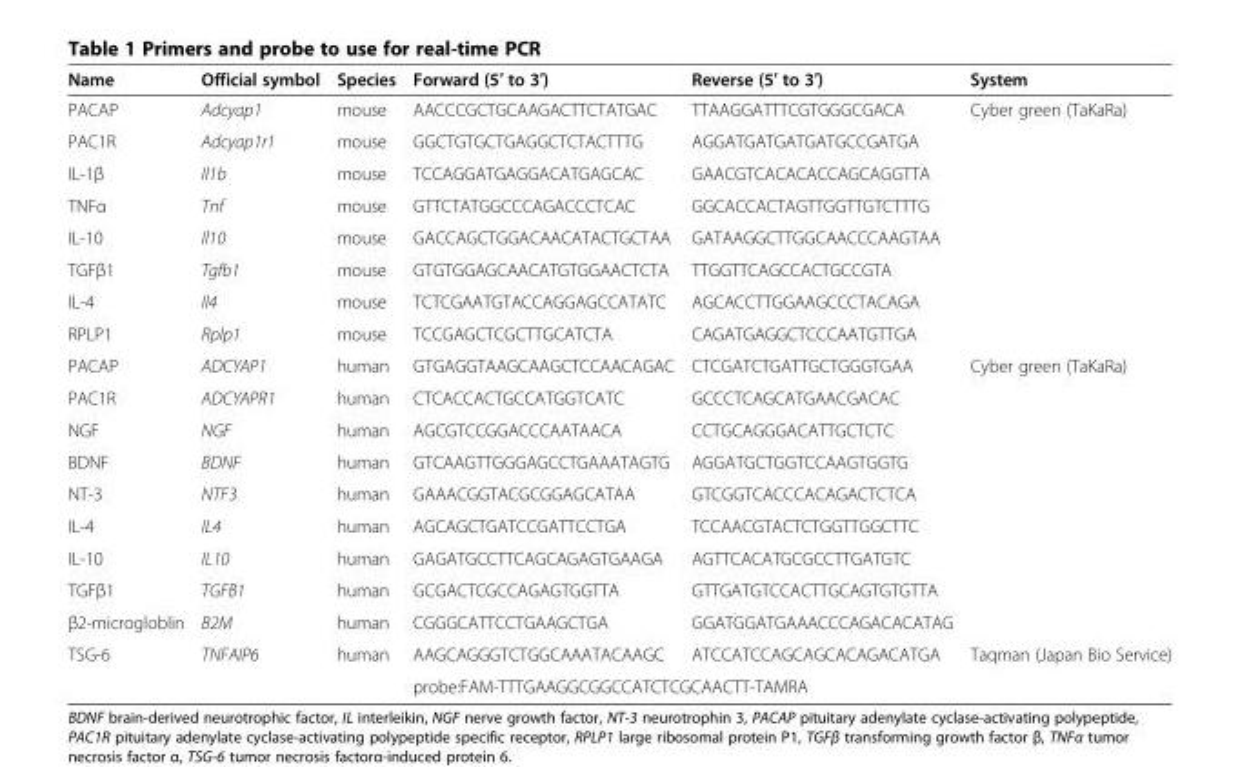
<table><thead><tr><td>Name</td><td>Official symbol</td><td>Species</td><td>Forward (5′ to 3′)</td><td>Reverse (5′ to 3′)</td><td>System</td></tr></thead><tbody><tr><td>PACAP</td><td>Adcyap1</td><td>mouse</td><td>AACCCGCTGCAAGACTTCTATGAC</td><td>TTAAGGATTTCGTGGGCGACA</td><td rowspan="8">Cyber green (TaKaRa)</td></tr><tr><td>PAC1R</td><td>Adcyap1r1</td><td>mouse</td><td>GGCTGTGCTGAGGCTCTACTTTG</td><td>AGGATGATGATGATGCCGATGA</td></tr><tr><td>IL-1β</td><td>Il1b</td><td>mouse</td><td>TCCAGGATGAGGACATGAGCAC</td><td>GAACGTCACACACCAGCAGGTTA</td></tr><tr><td>TNFα</td><td>Tnf</td><td>mouse</td><td>GTTCTATGGCCCAGACCCTCAC</td><td>GGCACCACTAGTTGGTTGTCTTTG</td></tr><tr><td>IL-10</td><td>Il10</td><td>mouse</td><td>GACCAGCTGGACAACATACTGCTAA</td><td>GATAAGGCTTGGCAACCCAAGTAA</td></tr><tr><td>TGFβ1</td><td>Tgfb1</td><td>mouse</td><td>GTGTGGAGCAACATGTGGAACTCTA</td><td>TTGGTTCAGCCACTGCCGTA</td></tr><tr><td>IL-4</td><td>Il4</td><td>mouse</td><td>TCTCGAATGTACCAGGAGCCATATC</td><td>AGCACCTTGGAAGCCCTACAGA</td></tr><tr><td>RPLP1</td><td>Rplp1</td><td>mouse</td><td>TCCGAGCTCGCTTGCATCTA</td><td>CAGATGAGGCTCCCAATGTTGA</td></tr><tr><td>PACAP</td><td>ADCYAP1</td><td>human</td><td>GTGAGGTAAGCAAGCTCCAACAGAC</td><td>CTCGATCTGATTGCTGGGTGAA</td><td rowspan="9">Cyber green (TaKaRa)</td></tr><tr><td>PAC1R</td><td>ADCYAPR1</td><td>human</td><td>CTCACCACTGCCATGGTCATC</td><td>GCCCTCAGCATGAACGACAC</td></tr><tr><td>NGF</td><td>NGF</td><td>human</td><td>AGCGTCCGGACCCAATAACA</td><td>CCTGCAGGGACATTGCTCTC</td></tr><tr><td>BDNF</td><td>BDNF</td><td>human</td><td>GTCAAGTTGGGAGCCTGAAATAGTG</td><td>AGGATGCTGGTCCAAGTGGTG</td></tr><tr><td>NT-3</td><td>NTF3</td><td>human</td><td>GAAACGGTACGCGGAGCATAA</td><td>GTCGGTCACCCACAGACTCTCA</td></tr><tr><td>IL-4</td><td>IL4</td><td>human</td><td>AGCAGCTGATCCGATTCCTGA</td><td>TCCAACGTACTCTGGTTGGCTTC</td></tr><tr><td>IL-10</td><td>IL10</td><td>human</td><td>GAGATGCCTTCAGCAGAGTGAAGA</td><td>AGTTCACATGCGCCTTGATGTC</td></tr><tr><td>TGFβ1</td><td>TGFB1</td><td>human</td><td>GCGACTCGCCAGAGTGGTTA</td><td>GTTGATGTCCACTTGCAGTGTGTTA</td></tr><tr><td>β2-microgloblin</td><td>B2M</td><td>human</td><td>CGGGCATTCCTGAAGCTGA</td><td>GGATGGATGAAACCCAGACACATAG</td></tr><tr><td rowspan="2">TSG-6</td><td rowspan="2">TNFAIP6</td><td rowspan="2">human</td><td>AAGCAGGGTCTGGCAAATACAAGC</td><td>ATCCATCCAGCAGCACAGACATGA</td><td>Taqman (Japan Bio Service)</td></tr><tr><td colspan="2">probe:FAM-TTTGAAGGCGGCCATCTCGCAACTT-TAMRA</td><td></td></tr></tbody></table>